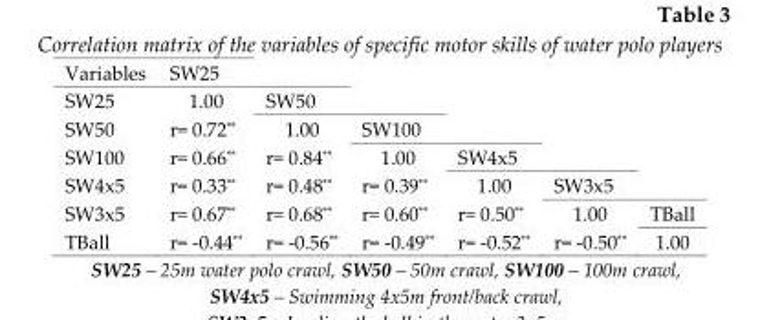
<table><tbody><tr><td>Variables</td><td>SW25</td><td></td><td></td><td></td><td></td><td></td></tr><tr><td>SW25</td><td>1.00</td><td>SW50</td><td></td><td></td><td></td><td></td></tr><tr><td>SW50</td><td>r= 0.72**</td><td>1.00</td><td>SW100</td><td></td><td></td><td></td></tr><tr><td>SW100</td><td>r= 0.66**</td><td>r= 0.84**</td><td>1.00</td><td>SW4x5</td><td></td><td></td></tr><tr><td>SW4x5</td><td>r= 0.33**</td><td>r= 0.48**</td><td>r= 0.39**</td><td>1.00</td><td>SW3x5</td><td></td></tr><tr><td>SW3x5</td><td>r= 0.67**</td><td>r= 0.68**</td><td>r= 0.60**</td><td>r= 0.50**</td><td>1.00</td><td>TBall</td></tr><tr><td>TBall</td><td>r= -0.44**</td><td>r= -0.56**</td><td>r= -0.49**</td><td>r= -0.52**</td><td>r= -0.50**</td><td>1.00</td></tr></tbody></table>